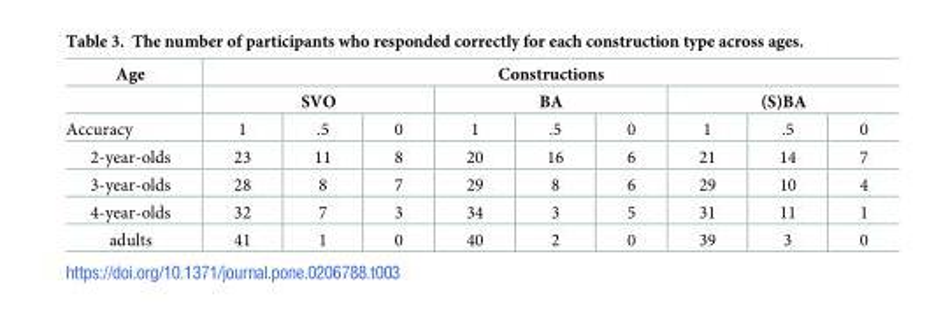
<table><thead><tr><td rowspan="3">Age Accuracy</td><td colspan="9">Constructions</td></tr><tr><td colspan="3">SVO</td><td colspan="3">BA</td><td colspan="3">(S)BA</td></tr><tr><td>1</td><td>.5</td><td>0</td><td>1</td><td>.5</td><td>0</td><td>1</td><td>.5</td><td>0</td></tr></thead><tbody><tr><td>2-year-olds</td><td>23</td><td>11</td><td>8</td><td>20</td><td>16</td><td>6</td><td>21</td><td>14</td><td>7</td></tr><tr><td>3-year-olds</td><td>28</td><td>8</td><td>7</td><td>29</td><td>8</td><td>6</td><td>29</td><td>10</td><td>4</td></tr><tr><td>4-year-olds</td><td>32</td><td>7</td><td>3</td><td>34</td><td>3</td><td>5</td><td>31</td><td>11</td><td>1</td></tr><tr><td>adults</td><td>41</td><td>1</td><td>0</td><td>40</td><td>2</td><td>0</td><td>39</td><td>3</td><td>0</td></tr></tbody></table>